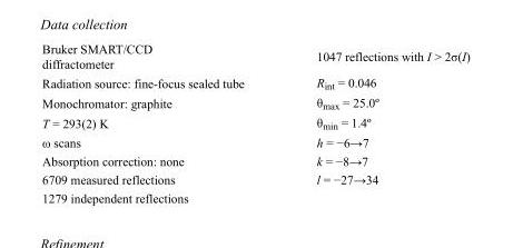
<table><tbody><tr><td>Bruker SMART/CCD diffractometer</td><td>1047 reflections with I &gt; 2σ(I)</td></tr><tr><td>Radiation source: fine-focus sealed tube</td><td>R<sub>int</sub> = 0.046</td></tr><tr><td>Monochromator: graphite</td><td>θ<sub>max</sub> = 25.0º</td></tr><tr><td>T = 293(2) K</td><td>θ<sub>min</sub> = 1.4º</td></tr><tr><td>ω scans</td><td>h = −6→7</td></tr><tr><td>Absorption correction: none</td><td>k = −8→7</td></tr><tr><td>6709 measured reflections</td><td>l = −27→34</td></tr><tr><td>1279 independent reflections</td><td></td></tr></tbody></table>